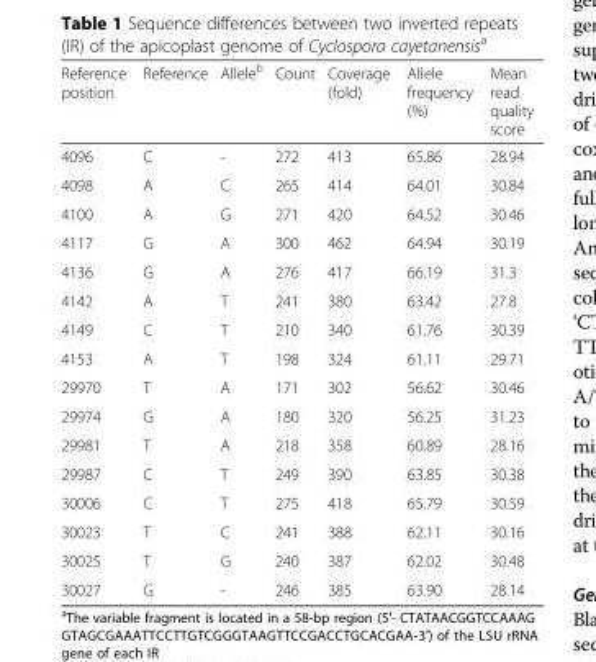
<table><thead><tr><td>Reference position</td><td>Reference</td><td>Allele<sup>b</sup></td><td>Count</td><td>Coverage (fold)</td><td>Allele frequency (%)</td><td>Mean read quality score</td></tr></thead><tbody><tr><td>4096</td><td>C</td><td>-</td><td>272</td><td>413</td><td>65.86</td><td>28.94</td></tr><tr><td>4098</td><td>A</td><td>C</td><td>265</td><td>414</td><td>64.01</td><td>30.84</td></tr><tr><td>4100</td><td>A</td><td>G</td><td>271</td><td>420</td><td>64.52</td><td>30.46</td></tr><tr><td>4117</td><td>G</td><td>A</td><td>300</td><td>462</td><td>64.94</td><td>30.19</td></tr><tr><td>4136</td><td>G</td><td>A</td><td>276</td><td>417</td><td>66.19</td><td>31.3</td></tr><tr><td>4142</td><td>A</td><td>T</td><td>241</td><td>380</td><td>63.42</td><td>27.8</td></tr><tr><td>4149</td><td>C</td><td>T</td><td>210</td><td>340</td><td>61.76</td><td>30.39</td></tr><tr><td>4153</td><td>A</td><td>T</td><td>198</td><td>324</td><td>61.11</td><td>29.71</td></tr><tr><td>29970</td><td>T</td><td>A</td><td>171</td><td>302</td><td>56.62</td><td>30.46</td></tr><tr><td>29974</td><td>G</td><td>A</td><td>180</td><td>320</td><td>56.25</td><td>31.23</td></tr><tr><td>29981</td><td>T</td><td>A</td><td>218</td><td>358</td><td>60.89</td><td>28.16</td></tr><tr><td>29987</td><td>C</td><td>T</td><td>249</td><td>390</td><td>63.85</td><td>30.38</td></tr><tr><td>30006</td><td>C</td><td>T</td><td>275</td><td>418</td><td>65.79</td><td>30.59</td></tr><tr><td>30023</td><td>T</td><td>C</td><td>241</td><td>388</td><td>62.11</td><td>30.16</td></tr><tr><td>30025</td><td>T</td><td>G</td><td>240</td><td>387</td><td>62.02</td><td>30.48</td></tr><tr><td>30027</td><td>G</td><td>-</td><td>246</td><td>385</td><td>63.90</td><td>28.14</td></tr></tbody></table>